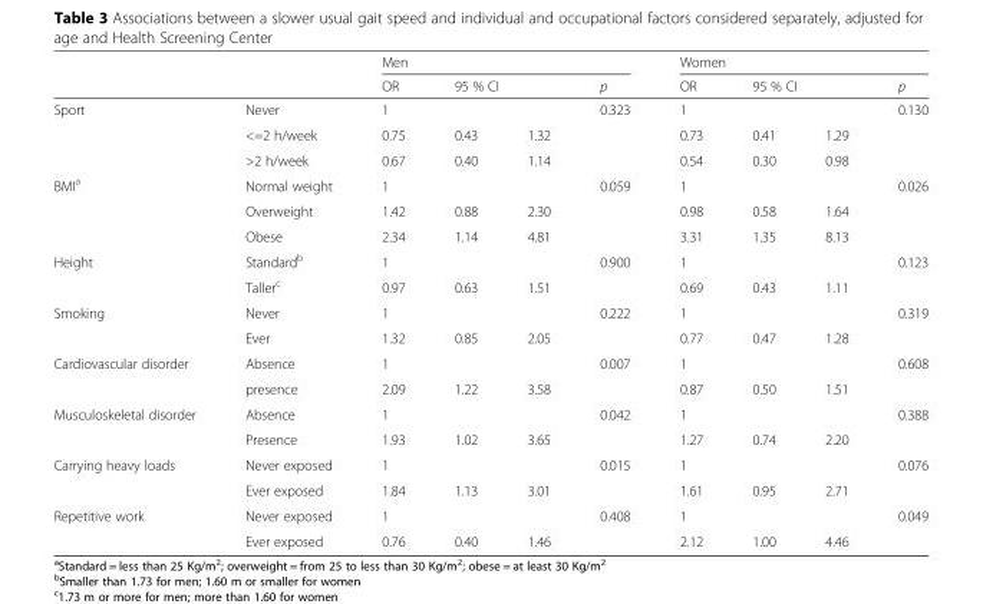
<table><thead><tr><td rowspan="3">Sport</td><td rowspan="3">Never</td><td colspan="4">Men</td><td colspan="4">Women</td></tr><tr><td rowspan="2">OR 1</td><td colspan="2">95 % CI</td><td rowspan="2">p 0.323</td><td rowspan="2">OR 1</td><td colspan="2">95 % CI</td><td rowspan="2">p 0.130</td></tr><tr><td></td><td></td><td></td><td></td></tr></thead><tbody><tr><td></td><td>&lt;=2 h/week</td><td>0.75</td><td>0.43</td><td>1.32</td><td></td><td>0.73</td><td>0.41</td><td>1.29</td><td></td></tr><tr><td></td><td>&gt;2 h/week</td><td>0.67</td><td>0.40</td><td>1.14</td><td></td><td>0.54</td><td>0.30</td><td>0.98</td><td></td></tr><tr><td rowspan="3">BMI<sup>a</sup></td><td>Normal weight</td><td>1</td><td></td><td></td><td>0.059</td><td>1</td><td></td><td></td><td>0.026</td></tr><tr><td>Overweight</td><td>1.42</td><td>0.88</td><td>2.30</td><td></td><td>0.98</td><td>0.58</td><td>1.64</td><td></td></tr><tr><td>Obese</td><td>2.34</td><td>1.14</td><td>4.81</td><td></td><td>3.31</td><td>1.35</td><td>8.13</td><td></td></tr><tr><td rowspan="2">Height</td><td>Standard<sup>b</sup></td><td>1</td><td></td><td></td><td>0.900</td><td>1</td><td></td><td></td><td>0.123</td></tr><tr><td>Taller<sup>c</sup></td><td>0.97</td><td>0.63</td><td>1.51</td><td></td><td>0.69</td><td>0.43</td><td>1.11</td><td></td></tr><tr><td rowspan="2">Smoking</td><td>Never</td><td>1</td><td></td><td></td><td>0.222</td><td>1</td><td></td><td></td><td>0.319</td></tr><tr><td>Ever</td><td>1.32</td><td>0.85</td><td>2.05</td><td></td><td>0.77</td><td>0.47</td><td>1.28</td><td></td></tr><tr><td rowspan="2">Cardiovascular disorder</td><td>Absence</td><td>1</td><td></td><td></td><td>0.007</td><td>1</td><td></td><td></td><td>0.608</td></tr><tr><td>presence</td><td>2.09</td><td>1.22</td><td>3.58</td><td></td><td>0.87</td><td>0.50</td><td>1.51</td><td></td></tr><tr><td rowspan="2">Musculoskeletal disorder</td><td>Absence</td><td>1</td><td></td><td></td><td>0.042</td><td>1</td><td></td><td></td><td>0.388</td></tr><tr><td>Presence</td><td>1.93</td><td>1.02</td><td>3.65</td><td></td><td>1.27</td><td>0.74</td><td>2.20</td><td></td></tr><tr><td rowspan="2">Carrying heavy loads</td><td>Never exposed</td><td>1</td><td></td><td></td><td>0.015</td><td>1</td><td></td><td></td><td>0.076</td></tr><tr><td>Ever exposed</td><td>1.84</td><td>1.13</td><td>3.01</td><td></td><td>1.61</td><td>0.95</td><td>2.71</td><td></td></tr><tr><td rowspan="2">Repetitive work</td><td>Never exposed</td><td>1</td><td></td><td></td><td>0.408</td><td>1</td><td></td><td></td><td>0.049</td></tr><tr><td>Ever exposed</td><td>0.76</td><td>0.40</td><td>1.46</td><td></td><td>2.12</td><td>1.00</td><td>4.46</td><td></td></tr></tbody></table>